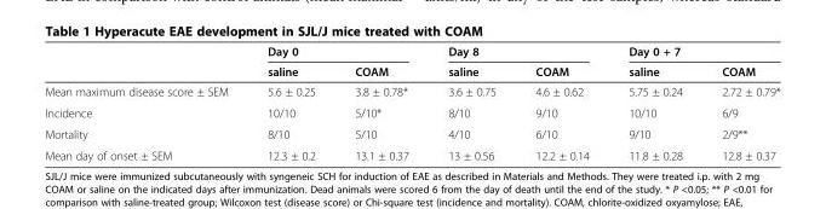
<table><thead><tr><td rowspan="2"></td><td colspan="2">Day 0</td><td colspan="2">Day 8</td><td colspan="2">Day 0 + 7</td></tr><tr><td>saline</td><td>COAM</td><td>saline</td><td>COAM</td><td>saline</td><td>COAM</td></tr></thead><tbody><tr><td>Mean maximum disease score ± SEM</td><td>5.6 ± 0.25</td><td>3.8 ± 0.78*</td><td>3.6 ± 0.75</td><td>4.6 ± 0.62</td><td>5.75 ± 0.24</td><td>2.72 ± 0.79*</td></tr><tr><td>Incidence</td><td>10/10</td><td>5/10*</td><td>8/10</td><td>9/10</td><td>10/10</td><td>6/9</td></tr><tr><td>Mortality</td><td>8/10</td><td>5/10</td><td>4/10</td><td>6/10</td><td>9/10</td><td>2/9**</td></tr><tr><td>Mean day of onset ± SEM</td><td>12.3 ± 0.2</td><td>13.1 ± 0.37</td><td>13 ± 0.56</td><td>12.2 ± 0.14</td><td>11.8 ± 0.28</td><td>12.8 ± 0.37</td></tr></tbody></table>